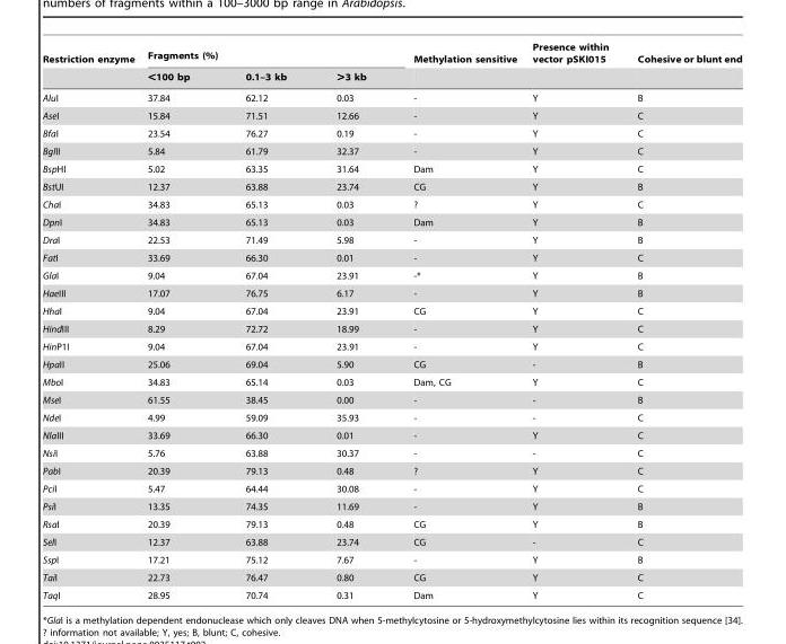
<table><thead><tr><td rowspan="2">Restriction enzyme</td><td colspan="3">Fragments (%)</td><td rowspan="2">Methylation sensitive</td><td rowspan="2">Presence within vector pSKI015</td><td rowspan="2">Cohesive or blunt end</td></tr><tr><td>&lt;100 bp</td><td>0.1–3 kb</td><td>&gt;3 kb</td></tr></thead><tbody><tr><td>AluI</td><td>37.84</td><td>62.12</td><td>0.03</td><td>-</td><td>Y</td><td>B</td></tr><tr><td>AseI</td><td>15.84</td><td>71.51</td><td>12.66</td><td>-</td><td>Y</td><td>C</td></tr><tr><td>BfaI</td><td>23.54</td><td>76.27</td><td>0.19</td><td>-</td><td>Y</td><td>C</td></tr><tr><td>BglII</td><td>5.84</td><td>61.79</td><td>32.37</td><td>-</td><td>Y</td><td>C</td></tr><tr><td>BspHI</td><td>5.02</td><td>63.35</td><td>31.64</td><td>Dam</td><td>Y</td><td>C</td></tr><tr><td>BstUI</td><td>12.37</td><td>63.88</td><td>23.74</td><td>CG</td><td>Y</td><td>B</td></tr><tr><td>ChaI</td><td>34.83</td><td>65.13</td><td>0.03</td><td>?</td><td>Y</td><td>C</td></tr><tr><td>DpnI</td><td>34.83</td><td>65.13</td><td>0.03</td><td>Dam</td><td>Y</td><td>B</td></tr><tr><td>DraI</td><td>22.53</td><td>71.49</td><td>5.98</td><td>-</td><td>Y</td><td>B</td></tr><tr><td>FatI</td><td>33.69</td><td>66.30</td><td>0.01</td><td>-</td><td>Y</td><td>C</td></tr><tr><td>GlaI</td><td>9.04</td><td>67.04</td><td>23.91</td><td>-*</td><td>Y</td><td>B</td></tr><tr><td>HaeIII</td><td>17.07</td><td>76.75</td><td>6.17</td><td>-</td><td>Y</td><td>B</td></tr><tr><td>HhaI</td><td>9.04</td><td>67.04</td><td>23.91</td><td>CG</td><td>Y</td><td>C</td></tr><tr><td>HindIII</td><td>8.29</td><td>72.72</td><td>18.99</td><td>-</td><td>Y</td><td>C</td></tr><tr><td>HinP1I</td><td>9.04</td><td>67.04</td><td>23.91</td><td>-</td><td>Y</td><td>C</td></tr><tr><td>HpaII</td><td>25.06</td><td>69.04</td><td>5.90</td><td>CG</td><td>-</td><td>B</td></tr><tr><td>MboI</td><td>34.83</td><td>65.14</td><td>0.03</td><td>Dam, CG</td><td>Y</td><td>C</td></tr><tr><td>MseI</td><td>61.55</td><td>38.45</td><td>0.00</td><td>-</td><td>-</td><td>B</td></tr><tr><td>NdeI</td><td>4.99</td><td>59.09</td><td>35.93</td><td>-</td><td>-</td><td>C</td></tr><tr><td>NlaIII</td><td>33.69</td><td>66.30</td><td>0.01</td><td>-</td><td>Y</td><td>C</td></tr><tr><td>NsiI</td><td>5.76</td><td>63.88</td><td>30.37</td><td>-</td><td>-</td><td>C</td></tr><tr><td>PabI</td><td>20.39</td><td>79.13</td><td>0.48</td><td>?</td><td>Y</td><td>C</td></tr><tr><td>PciI</td><td>5.47</td><td>64.44</td><td>30.08</td><td>-</td><td>Y</td><td>C</td></tr><tr><td>PsiI</td><td>13.35</td><td>74.35</td><td>11.69</td><td>-</td><td>Y</td><td>B</td></tr><tr><td>RsaI</td><td>20.39</td><td>79.13</td><td>0.48</td><td>CG</td><td>Y</td><td>B</td></tr><tr><td>SelI</td><td>12.37</td><td>63.88</td><td>23.74</td><td>CG</td><td>-</td><td>C</td></tr><tr><td>SspI</td><td>17.21</td><td>75.12</td><td>7.67</td><td>-</td><td>Y</td><td>B</td></tr><tr><td>TaiI</td><td>22.73</td><td>76.47</td><td>0.80</td><td>CG</td><td>Y</td><td>C</td></tr><tr><td>TaqI</td><td>28.95</td><td>70.74</td><td>0.31</td><td>Dam</td><td>Y</td><td>C</td></tr></tbody></table>